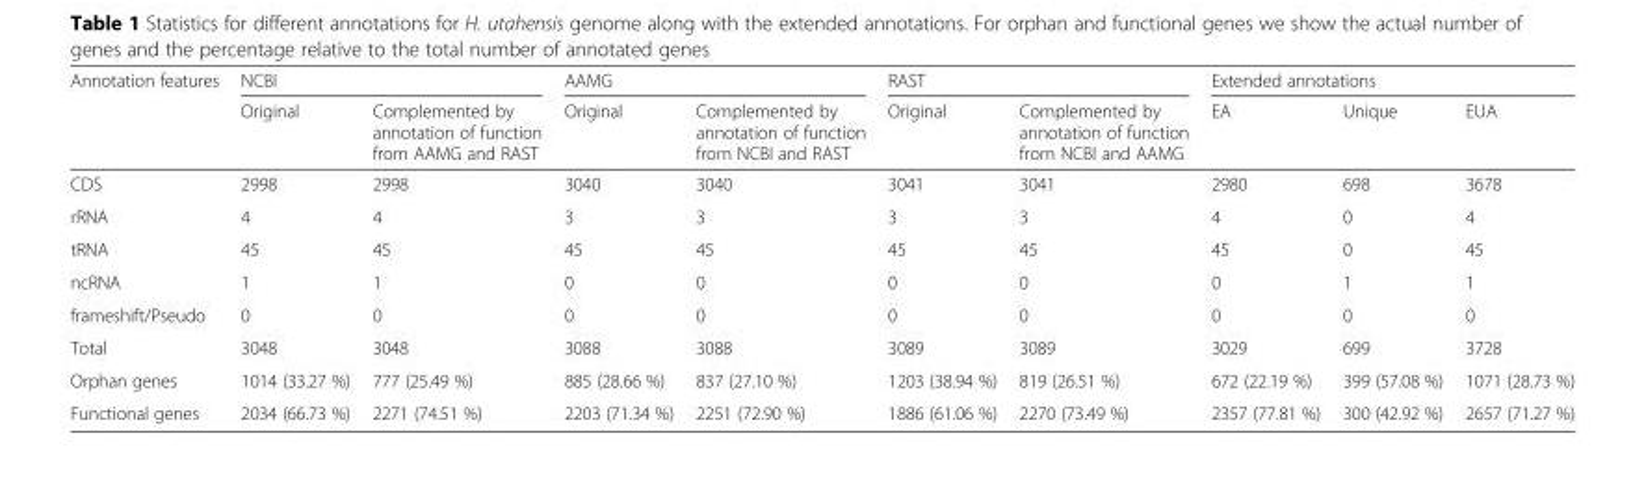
<table><thead><tr><td rowspan="2">Annotation features</td><td colspan="2">NCBI</td><td colspan="2">AAMG</td><td colspan="2">RAST</td><td colspan="3">Extended annotations</td></tr><tr><td>Original</td><td>Complemented by annotation of function from AAMG and RAST</td><td>Original</td><td>Complemented by annotation of function from NCBI and RAST</td><td>Original</td><td>Complemented by annotation of function from NCBI and AAMG</td><td>EA</td><td>Unique</td><td>EUA</td></tr></thead><tbody><tr><td>CDS</td><td>2998</td><td>2998</td><td>3040</td><td>3040</td><td>3041</td><td>3041</td><td>2980</td><td>698</td><td>3678</td></tr><tr><td>rRNA</td><td>4</td><td>4</td><td>3</td><td>3</td><td>3</td><td>3</td><td>4</td><td>0</td><td>4</td></tr><tr><td>tRNA</td><td>45</td><td>45</td><td>45</td><td>45</td><td>45</td><td>45</td><td>45</td><td>0</td><td>45</td></tr><tr><td>ncRNA</td><td>1</td><td>1</td><td>0</td><td>0</td><td>0</td><td>0</td><td>0</td><td>1</td><td>1</td></tr><tr><td>frameshift/Pseudo</td><td>0</td><td>0</td><td>0</td><td>0</td><td>0</td><td>0</td><td>0</td><td>0</td><td>0</td></tr><tr><td>Total</td><td>3048</td><td>3048</td><td>3088</td><td>3088</td><td>3089</td><td>3089</td><td>3029</td><td>699</td><td>3728</td></tr><tr><td>Orphan genes</td><td>1014 (33.27 %)</td><td>777 (25.49 %)</td><td>885 (28.66 %)</td><td>837 (27.10 %)</td><td>1203 (38.94 %)</td><td>819 (26.51 %)</td><td>672 (22.19 %)</td><td>399 (57.08 %)</td><td>1071 (28.73 %)</td></tr><tr><td>Functional genes</td><td>2034 (66.73 %)</td><td>2271 (74.51 %)</td><td>2203 (71.34 %)</td><td>2251 (72.90 %)</td><td>1886 (61.06 %)</td><td>2270 (73.49 %)</td><td>2357 (77.81 %)</td><td>300 (42.92 %)</td><td>2657 (71.27 %)</td></tr></tbody></table>